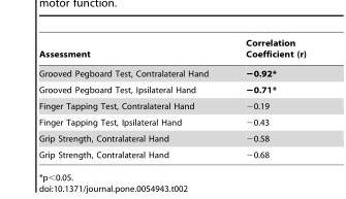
<table><thead><tr><td>Assessment</td><td>Correlation Coefficient (r)</td></tr></thead><tbody><tr><td>Grooved Pegboard Test, Contralateral Hand</td><td>−0.92*</td></tr><tr><td>Grooved Pegboard Test, Ipsilateral Hand</td><td>−0.71*</td></tr><tr><td>Finger Tapping Test, Contralateral Hand</td><td>−0.19</td></tr><tr><td>Finger Tapping Test, Ipsilateral Hand</td><td>−0.43</td></tr><tr><td>Grip Strength, Contralateral Hand</td><td>−0.58</td></tr><tr><td>Grip Strength, Contralateral Hand</td><td>−0.68</td></tr></tbody></table>